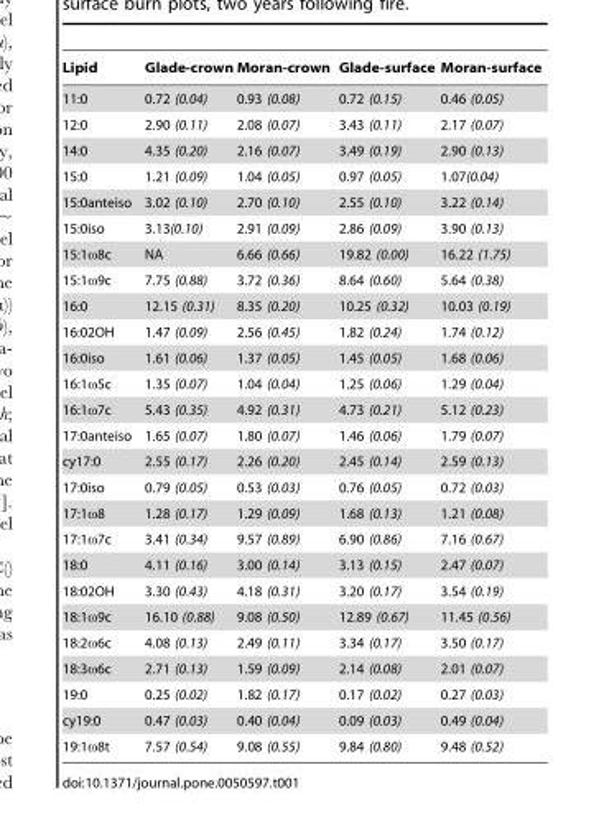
<table><thead><tr><td>Lipid</td><td>Glade-crown</td><td>Moran-crown</td><td>Glade-surface</td><td>Moran-surface</td></tr></thead><tbody><tr><td>11:0</td><td>0.72 (0.04)</td><td>0.93 (0.08)</td><td>0.72 (0.15)</td><td>0.46 (0.05)</td></tr><tr><td>12:0</td><td>2.90 (0.11)</td><td>2.08 (0.07)</td><td>3.43 (0.11)</td><td>2.17 (0.07)</td></tr><tr><td>14:0</td><td>4.35 (0.20)</td><td>2.16 (0.07)</td><td>3.49 (0.19)</td><td>2.90 (0.13)</td></tr><tr><td>15:0</td><td>1.21 (0.09)</td><td>1.04 (0.05)</td><td>0.97 (0.05)</td><td>1.07(0.04)</td></tr><tr><td>15:0anteiso</td><td>3.02 (0.10)</td><td>2.70 (0.10)</td><td>2.55 (0.10)</td><td>3.22 (0.14)</td></tr><tr><td>15:0iso</td><td>3.13(0.10)</td><td>2.91 (0.09)</td><td>2.86 (0.09)</td><td>3.90 (0.13)</td></tr><tr><td>15:1ω8c</td><td>NA</td><td>6.66 (0.66)</td><td>19.82 (0.00)</td><td>16.22 (1.75)</td></tr><tr><td>15:1ω9c</td><td>7.75 (0.88)</td><td>3.72 (0.36)</td><td>8.64 (0.60)</td><td>5.64 (0.38)</td></tr><tr><td>16:0</td><td>12.15 (0.31)</td><td>8.35 (0.20)</td><td>10.25 (0.32)</td><td>10.03 (0.19)</td></tr><tr><td>16:02OH</td><td>1.47 (0.09)</td><td>2.56 (0.45)</td><td>1.82 (0.24)</td><td>1.74 (0.12)</td></tr><tr><td>16:0iso</td><td>1.61 (0.06)</td><td>1.37 (0.05)</td><td>1.45 (0.05)</td><td>1.68 (0.06)</td></tr><tr><td>16:1ω5c</td><td>1.35 (0.07)</td><td>1.04 (0.04)</td><td>1.25 (0.06)</td><td>1.29 (0.04)</td></tr><tr><td>16:1ω7c</td><td>5.43 (0.35)</td><td>4.92 (0.31)</td><td>4.73 (0.21)</td><td>5.12 (0.23)</td></tr><tr><td>17:0anteiso</td><td>1.65 (0.07)</td><td>1.80 (0.07)</td><td>1.46 (0.06)</td><td>1.79 (0.07)</td></tr><tr><td>cy17:0</td><td>2.55 (0.17)</td><td>2.26 (0.20)</td><td>2.45 (0.14)</td><td>2.59 (0.13)</td></tr><tr><td>17:0iso</td><td>0.79 (0.05)</td><td>0.53 (0.03)</td><td>0.76 (0.05)</td><td>0.72 (0.03)</td></tr><tr><td>17:1ω8</td><td>1.28 (0.17)</td><td>1.29 (0.09)</td><td>1.68 (0.13)</td><td>1.21 (0.08)</td></tr><tr><td>17:1ω7c</td><td>3.41 (0.34)</td><td>9.57 (0.89)</td><td>6.90 (0.86)</td><td>7.16 (0.67)</td></tr><tr><td>18:0</td><td>4.11 (0.16)</td><td>3.00 (0.14)</td><td>3.13 (0.15)</td><td>2.47 (0.07)</td></tr><tr><td>18:02OH</td><td>3.30 (0.43)</td><td>4.18 (0.31)</td><td>3.20 (0.17)</td><td>3.54 (0.19)</td></tr><tr><td>18:1ω9c</td><td>16.10 (0.88)</td><td>9.08 (0.50)</td><td>12.89 (0.67)</td><td>11.45 (0.56)</td></tr><tr><td>18:2ω6c</td><td>4.08 (0.13)</td><td>2.49 (0.11)</td><td>3.34 (0.17)</td><td>3.50 (0.17)</td></tr><tr><td>18:3ω6c</td><td>2.71 (0.13)</td><td>1.59 (0.09)</td><td>2.14 (0.08)</td><td>2.01 (0.07)</td></tr><tr><td>19:0</td><td>0.25 (0.02)</td><td>1.82 (0.17)</td><td>0.17 (0.02)</td><td>0.27 (0.03)</td></tr><tr><td>cy19:0</td><td>0.47 (0.03)</td><td>0.40 (0.04)</td><td>0.09 (0.03)</td><td>0.49 (0.04)</td></tr><tr><td>19:1ω8t</td><td>7.57 (0.54)</td><td>9.08 (0.55)</td><td>9.84 (0.80)</td><td>9.48 (0.52)</td></tr></tbody></table>